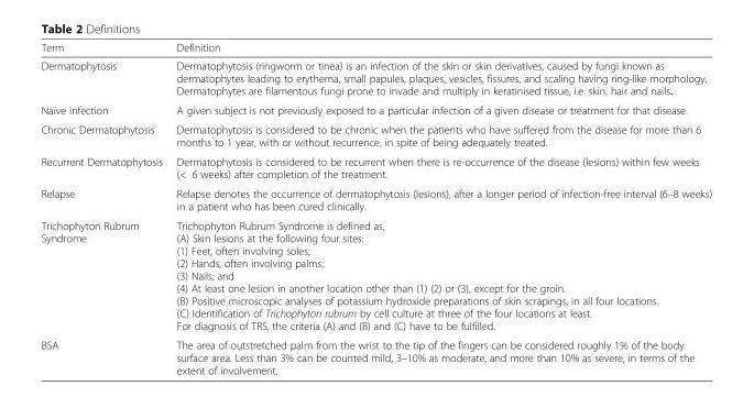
<table><thead><tr><td>Term</td><td>Definition</td></tr></thead><tbody><tr><td>Dermatophytosis</td><td>Dermatophytosis (ringworm or tinea) is an infection of the skin or skin derivatives, caused by fungi known as dermatophytes leading to erythema, small papules, plaques, vesicles, fissures, and scaling having ring-like morphology. Dermatophytes are filamentous fungi prone to invade and multiply in keratinised tissue, i.e. skin, hair and nails.</td></tr><tr><td>Naïve infection</td><td>A given subject is not previously exposed to a particular infection of a given disease or treatment for that disease.</td></tr><tr><td>Chronic Dermatophytosis</td><td>Dermatophytosis is considered to be chronic when the patients who have suffered from the disease for more than 6 months to 1 year, with or without recurrence, in spite of being adequately treated.</td></tr><tr><td>Recurrent Dermatophytosis</td><td>Dermatophytosis is considered to be recurrent when there is re-occurrence of the disease (lesions) within few weeks (&lt; 6 weeks) after completion of the treatment.</td></tr><tr><td>Relapse</td><td>Relapse denotes the occurrence of dermatophytosis (lesions), after a longer period of infection-free interval (6–8 weeks) in a patient who has been cured clinically.</td></tr><tr><td>Trichophyton Rubrum Syndrome</td><td>Trichophyton Rubrum Syndrome is defined as, (A) Skin lesions at the following four sites: (1) Feet, often involving soles; (2) Hands, often involving palms; (3) Nails; and (4) At least one lesion in another location other than (1) (2) or (3), except for the groin. (B) Positive microscopic analyses of potassium hydroxide preparations of skin scrapings, in all four locations. (C) Identification of Trichophyton rubrum by cell culture at three of the four locations at least. For diagnosis of TRS, the criteria (A) and (B) and (C) have to be fulfilled.</td></tr><tr><td>BSA</td><td>The area of outstretched palm from the wrist to the tip of the fingers can be considered roughly 1% of the body surface area. Less than 3% can be counted mild, 3–10% as moderate, and more than 10% as severe, in terms of the extent of involvement.</td></tr></tbody></table>